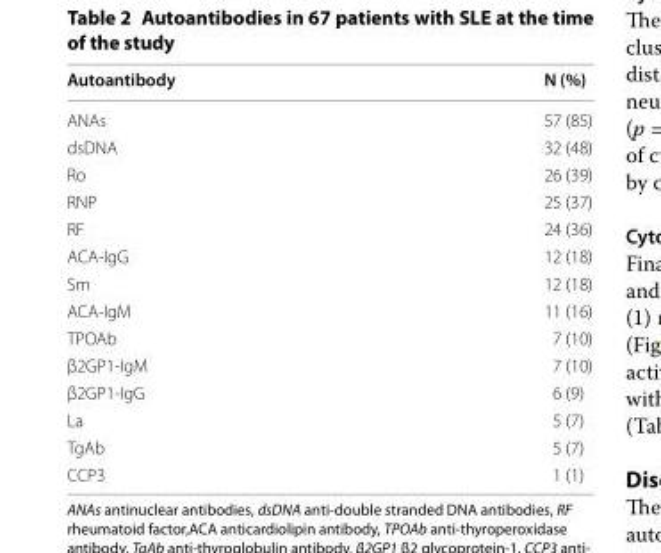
<table><thead><tr><td>Autoantibody</td><td>N (%)</td></tr></thead><tbody><tr><td>ANAs</td><td>57 (85)</td></tr><tr><td>dsDNA</td><td>32 (48)</td></tr><tr><td>Ro</td><td>26 (39)</td></tr><tr><td>RNP</td><td>25 (37)</td></tr><tr><td>RF</td><td>24 (36)</td></tr><tr><td>ACA‑IgG</td><td>12 (18)</td></tr><tr><td>Sm</td><td>12 (18)</td></tr><tr><td>ACA‑IgM</td><td>11 (16)</td></tr><tr><td>TPOAb</td><td>7 (10)</td></tr><tr><td>β2GP1‑IgM</td><td>7 (10)</td></tr><tr><td>β2GP1‑IgG</td><td>6 (9)</td></tr><tr><td>La</td><td>5 (7)</td></tr><tr><td>TgAb</td><td>5 (7)</td></tr><tr><td>CCP3</td><td>1 (1)</td></tr></tbody></table>